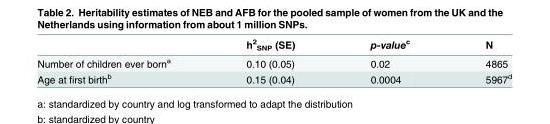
<table><thead><tr><td></td><td>h<sup>2</sup> <sub>SNP</sub> (SE)</td><td>p-value<sup>c</sup></td><td>N</td></tr></thead><tbody><tr><td>Number of children ever born<sup>a</sup></td><td>0.10 (0.05)</td><td>0.02</td><td>4865</td></tr><tr><td>Age at first birth<sup>b</sup></td><td>0.15 (0.04)</td><td>0.0004</td><td>5967<sup>d</sup></td></tr></tbody></table>